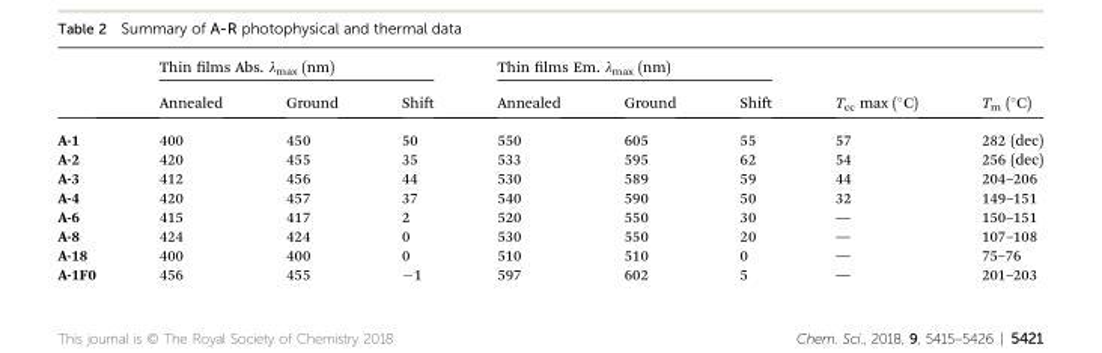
<table><thead><tr><td rowspan="2"></td><td colspan="3">Thin lms Abs. lmax (nm)</td><td colspan="3">Thin lms Em. lmax (nm)</td><td rowspan="2">T<sub>cc</sub> max (°C)</td><td rowspan="2">T<sub>m</sub> (°C)</td></tr><tr><td>Annealed</td><td>Ground</td><td>Shi</td><td>Annealed</td><td>Ground</td><td>Shi</td></tr></thead><tbody><tr><td>A-1</td><td>400</td><td>450</td><td>50</td><td>550</td><td>605</td><td>55</td><td>57</td><td>282 (dec)</td></tr><tr><td>A-2</td><td>420</td><td>455</td><td>35</td><td>533</td><td>595</td><td>62</td><td>54</td><td>256 (dec)</td></tr><tr><td>A-3</td><td>412</td><td>456</td><td>44</td><td>530</td><td>589</td><td>59</td><td>44</td><td>204–206</td></tr><tr><td>A-4</td><td>420</td><td>457</td><td>37</td><td>540</td><td>590</td><td>50</td><td>32</td><td>149–151</td></tr><tr><td>A-6</td><td>415</td><td>417</td><td>2</td><td>520</td><td>550</td><td>30</td><td>—</td><td>150–151</td></tr><tr><td>A-8</td><td>424</td><td>424</td><td>0</td><td>530</td><td>550</td><td>20</td><td>—</td><td>107–108</td></tr><tr><td>A-18</td><td>400</td><td>400</td><td>0</td><td>510</td><td>510</td><td>0</td><td>—</td><td>75–76</td></tr><tr><td>A-1F0</td><td>456</td><td>455</td><td>–1</td><td>597</td><td>602</td><td>5</td><td>—</td><td>201–203</td></tr></tbody></table>